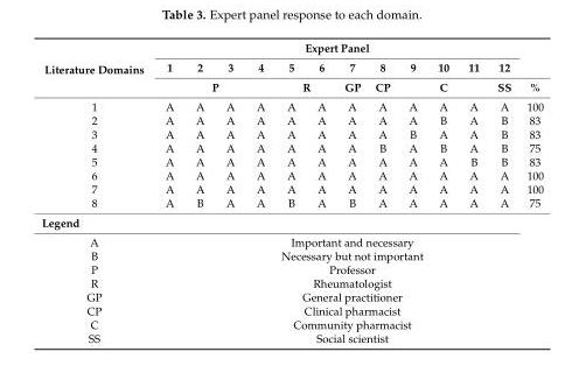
<table><thead><tr><td rowspan="3">Literature Domains</td><td colspan="12">Expert Panel</td><td rowspan="3">%</td></tr><tr><td>1</td><td>2</td><td>3</td><td>4</td><td>5</td><td>6</td><td rowspan="2">7 GP</td><td rowspan="2">8 CP</td><td>9</td><td>10</td><td>11</td><td rowspan="2">12 SS</td></tr><tr><td colspan="4">P</td><td colspan="2">R</td><td colspan="3">C</td></tr></thead><tbody><tr><td>1</td><td>A</td><td>A</td><td>A</td><td>A</td><td>A</td><td>A</td><td>A</td><td>A</td><td>A</td><td>A</td><td>A</td><td>A</td><td>100</td></tr><tr><td>2</td><td>A</td><td>A</td><td>A</td><td>A</td><td>A</td><td>A</td><td>A</td><td>A</td><td>A</td><td>B</td><td>A</td><td>B</td><td>83</td></tr><tr><td>3</td><td>A</td><td>A</td><td>A</td><td>A</td><td>A</td><td>A</td><td>A</td><td>A</td><td>B</td><td>A</td><td>A</td><td>B</td><td>83</td></tr><tr><td>4</td><td>A</td><td>A</td><td>A</td><td>A</td><td>A</td><td>A</td><td>A</td><td>B</td><td>A</td><td>B</td><td>A</td><td>B</td><td>75</td></tr><tr><td>5</td><td>A</td><td>A</td><td>A</td><td>A</td><td>A</td><td>A</td><td>A</td><td>A</td><td>A</td><td>A</td><td>B</td><td>B</td><td>83</td></tr><tr><td>6</td><td>A</td><td>A</td><td>A</td><td>A</td><td>A</td><td>A</td><td>A</td><td>A</td><td>A</td><td>A</td><td>A</td><td>A</td><td>100</td></tr><tr><td>7</td><td>A</td><td>A</td><td>A</td><td>A</td><td>A</td><td>A</td><td>A</td><td>A</td><td>A</td><td>A</td><td>A</td><td>A</td><td>100</td></tr><tr><td>8</td><td>A</td><td>B</td><td>A</td><td>A</td><td>B</td><td>A</td><td>B</td><td>A</td><td>A</td><td>A</td><td>A</td><td>A</td><td>75</td></tr><tr><td colspan="14">Legend</td></tr><tr><td>A</td><td colspan="13">Important and necessary</td></tr><tr><td>B</td><td colspan="13">Necessary but not important</td></tr><tr><td>P</td><td colspan="13">Professor</td></tr><tr><td>R</td><td colspan="13">Rheumatologist</td></tr><tr><td>GP</td><td colspan="13">General practitioner</td></tr><tr><td>CP</td><td colspan="13">Clinical pharmacist</td></tr><tr><td>C</td><td colspan="13">Community pharmacist</td></tr><tr><td>SS</td><td colspan="13">Social scientist</td></tr></tbody></table>